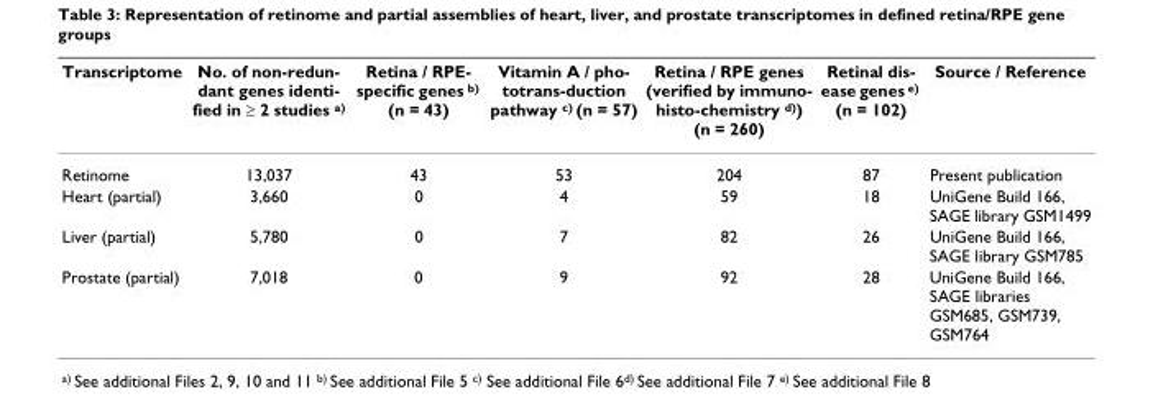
<table><thead><tr><td>Transcriptome</td><td>No. of non-redun- dant genes identi- fied in ≥ 2 studies a)</td><td>Retina / RPE- specific genes <sup>b)</sup> (n = 43)</td><td>Vitamin A / pho- totrans-duction pathway c) (n = 57)</td><td>Retina / RPE genes (verified by immuno- histo-chemistry d)) (n = 260)</td><td>Retinal dis- ease genes e) (n = 102)</td><td>Source / Reference</td></tr></thead><tbody><tr><td>Retinome</td><td>13,037</td><td>43</td><td>53</td><td>204</td><td>87</td><td>Present publication</td></tr><tr><td>Heart (partial)</td><td>3,660</td><td>0</td><td>4</td><td>59</td><td>18</td><td>UniGene Build 166, SAGE library GSM1499</td></tr><tr><td>Liver (partial)</td><td>5,780</td><td>0</td><td>7</td><td>82</td><td>26</td><td>UniGene Build 166, SAGE library GSM785</td></tr><tr><td>Prostate (partial)</td><td>7,018</td><td>0</td><td>9</td><td>92</td><td>28</td><td>UniGene Build 166, SAGE libraries GSM685, GSM739, GSM764</td></tr></tbody></table>